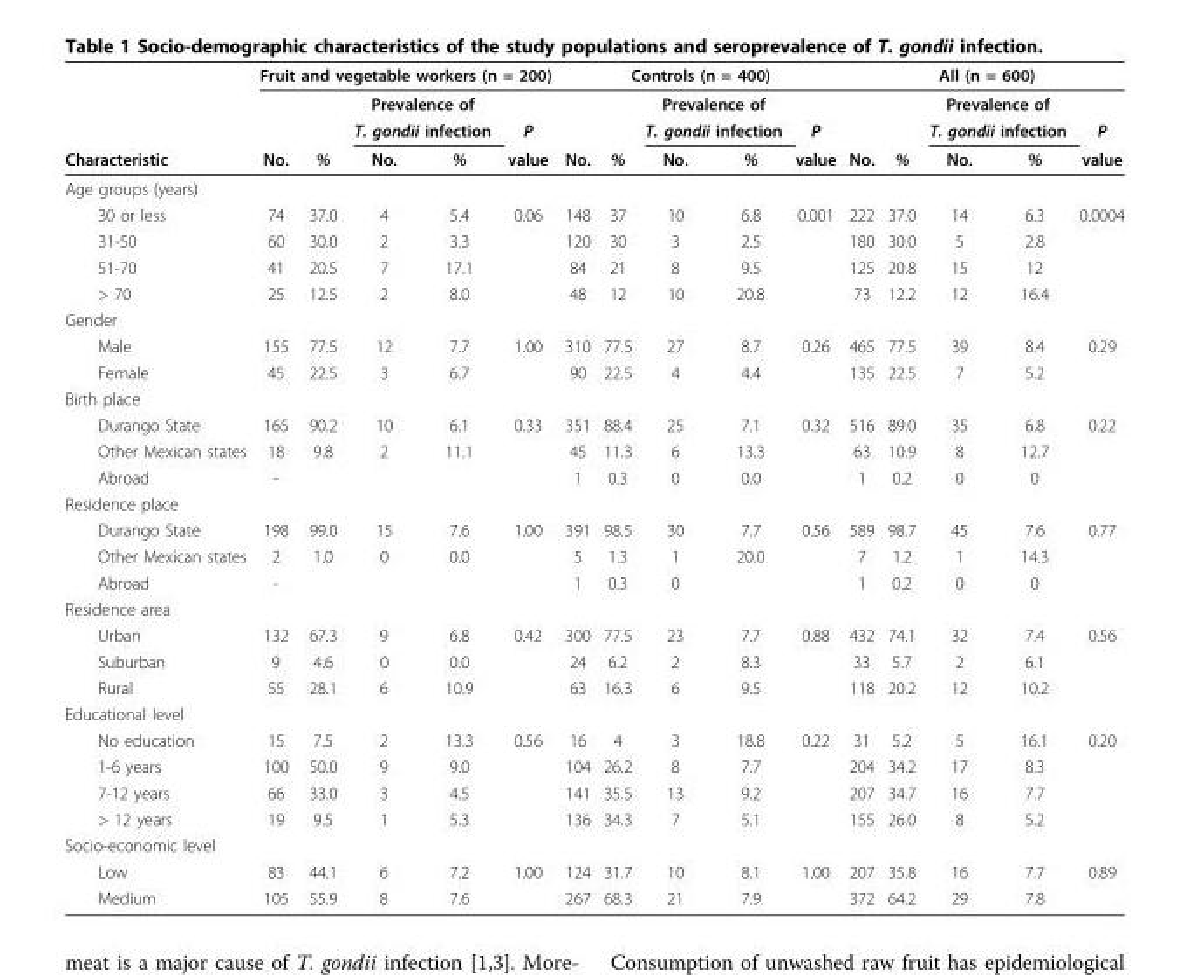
<table><thead><tr><td rowspan="4">Characteristic</td><td colspan="5">Fruit and vegetable workers (n = 200)</td><td colspan="5">Controls (n = 400)</td><td colspan="5">All (n = 600)</td></tr><tr><td rowspan="3">No.</td><td rowspan="3">%</td><td rowspan="2" colspan="2">Prevalence of T. gondii infection</td><td rowspan="3">P value</td><td rowspan="3">No.</td><td rowspan="3">%</td><td rowspan="2" colspan="2">Prevalence of T. gondii infection</td><td rowspan="3">P value</td><td rowspan="3">No.</td><td rowspan="3">%</td><td rowspan="2" colspan="2">Prevalence of T. gondii infection</td><td rowspan="3">P value</td></tr><tr></tr><tr><td>No.</td><td>%</td><td>No.</td><td>%</td><td>No.</td><td>%</td></tr></thead><tbody><tr><td colspan="16">Age groups (years)</td></tr><tr><td>30 or less</td><td>74</td><td>37.0</td><td>4</td><td>5.4</td><td>0.06</td><td>148</td><td>37</td><td>10</td><td>6.8</td><td>0.001</td><td>222</td><td>37.0</td><td>14</td><td>6.3</td><td>0.0004</td></tr><tr><td>31-50</td><td>60</td><td>30.0</td><td>2</td><td>3.3</td><td></td><td>120</td><td>30</td><td>3</td><td>2.5</td><td></td><td>180</td><td>30.0</td><td>5</td><td>2.8</td><td></td></tr><tr><td>51-70</td><td>41</td><td>20.5</td><td>7</td><td>17.1</td><td></td><td>84</td><td>21</td><td>8</td><td>9.5</td><td></td><td>125</td><td>20.8</td><td>15</td><td>12</td><td></td></tr><tr><td>&gt; 70</td><td>25</td><td>12.5</td><td>2</td><td>8.0</td><td></td><td>48</td><td>12</td><td>10</td><td>20.8</td><td></td><td>73</td><td>12.2</td><td>12</td><td>16.4</td><td></td></tr><tr><td colspan="16">Gender</td></tr><tr><td>Male</td><td>155</td><td>77.5</td><td>12</td><td>7.7</td><td>1.00</td><td>310</td><td>77.5</td><td>27</td><td>8.7</td><td>0.26</td><td>465</td><td>77.5</td><td>39</td><td>8.4</td><td>0.29</td></tr><tr><td>Female</td><td>45</td><td>22.5</td><td>3</td><td>6.7</td><td></td><td>90</td><td>22.5</td><td>4</td><td>4.4</td><td></td><td>135</td><td>22.5</td><td>7</td><td>5.2</td><td></td></tr><tr><td colspan="16">Birth place</td></tr><tr><td>Durango State</td><td>165</td><td>90.2</td><td>10</td><td>6.1</td><td>0.33</td><td>351</td><td>88.4</td><td>25</td><td>7.1</td><td>0.32</td><td>516</td><td>89.0</td><td>35</td><td>6.8</td><td>0.22</td></tr><tr><td>Other Mexican states</td><td>18</td><td>9.8</td><td>2</td><td>11.1</td><td></td><td>45</td><td>11.3</td><td>6</td><td>13.3</td><td></td><td>63</td><td>10.9</td><td>8</td><td>12.7</td><td></td></tr><tr><td>Abroad</td><td>-</td><td></td><td></td><td></td><td></td><td>1</td><td>0.3</td><td>0</td><td>0.0</td><td></td><td>1</td><td>0.2</td><td>0</td><td>0</td><td></td></tr><tr><td colspan="16">Residence place</td></tr><tr><td>Durango State</td><td>198</td><td>99.0</td><td>15</td><td>7.6</td><td>1.00</td><td>391</td><td>98.5</td><td>30</td><td>7.7</td><td>0.56</td><td>589</td><td>98.7</td><td>45</td><td>7.6</td><td>0.77</td></tr><tr><td>Other Mexican states</td><td>2</td><td>1.0</td><td>0</td><td>0.0</td><td></td><td>5</td><td>1.3</td><td>1</td><td>20.0</td><td></td><td>7</td><td>1.2</td><td>1</td><td>14.3</td><td></td></tr><tr><td>Abroad</td><td>-</td><td></td><td></td><td></td><td></td><td>1</td><td>0.3</td><td>0</td><td></td><td></td><td>1</td><td>0.2</td><td>0</td><td>0</td><td></td></tr><tr><td colspan="16">Residence area</td></tr><tr><td>Urban</td><td>132</td><td>67.3</td><td>9</td><td>6.8</td><td>0.42</td><td>300</td><td>77.5</td><td>23</td><td>7.7</td><td>0.88</td><td>432</td><td>74.1</td><td>32</td><td>7.4</td><td>0.56</td></tr><tr><td>Suburban</td><td>9</td><td>4.6</td><td>0</td><td>0.0</td><td></td><td>24</td><td>6.2</td><td>2</td><td>8.3</td><td></td><td>33</td><td>5.7</td><td>2</td><td>6.1</td><td></td></tr><tr><td>Rural</td><td>55</td><td>28.1</td><td>6</td><td>10.9</td><td></td><td>63</td><td>16.3</td><td>6</td><td>9.5</td><td></td><td>118</td><td>20.2</td><td>12</td><td>10.2</td><td></td></tr><tr><td colspan="16">Educational level</td></tr><tr><td>No education</td><td>15</td><td>7.5</td><td>2</td><td>13.3</td><td>0.56</td><td>16</td><td>4</td><td>3</td><td>18.8</td><td>0.22</td><td>31</td><td>5.2</td><td>5</td><td>16.1</td><td>0.20</td></tr><tr><td>1-6 years</td><td>100</td><td>50.0</td><td>9</td><td>9.0</td><td></td><td>104</td><td>26.2</td><td>8</td><td>7.7</td><td></td><td>204</td><td>34.2</td><td>17</td><td>8.3</td><td></td></tr><tr><td>7-12 years</td><td>66</td><td>33.0</td><td>3</td><td>4.5</td><td></td><td>141</td><td>35.5</td><td>13</td><td>9.2</td><td></td><td>207</td><td>34.7</td><td>16</td><td>7.7</td><td></td></tr><tr><td>&gt; 12 years</td><td>19</td><td>9.5</td><td>1</td><td>5.3</td><td></td><td>136</td><td>34.3</td><td>7</td><td>5.1</td><td></td><td>155</td><td>26.0</td><td>8</td><td>5.2</td><td></td></tr><tr><td colspan="16">Socio-economic level</td></tr><tr><td>Low</td><td>83</td><td>44.1</td><td>6</td><td>7.2</td><td>1.00</td><td>124</td><td>31.7</td><td>10</td><td>8.1</td><td>1.00</td><td>207</td><td>35.8</td><td>16</td><td>7.7</td><td>0.89</td></tr><tr><td>Medium</td><td>105</td><td>55.9</td><td>8</td><td>7.6</td><td></td><td>267</td><td>68.3</td><td>21</td><td>7.9</td><td></td><td>372</td><td>64.2</td><td>29</td><td>7.8</td><td></td></tr></tbody></table>